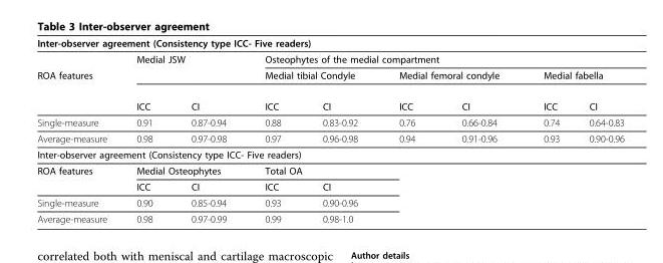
<table><thead><tr><td colspan="9">Inter-observer agreement (Consistency type ICC- Five readers)</td></tr><tr><td rowspan="3">ROA features</td><td colspan="2">Medial JSW</td><td colspan="6">Osteophytes of the medial compartment</td></tr><tr><td rowspan="2">ICC</td><td rowspan="2">CI</td><td colspan="2">Medial tibial Condyle</td><td colspan="2">Medial femoral condyle</td><td colspan="2">Medial fabella</td></tr><tr><td>ICC</td><td>CI</td><td>ICC</td><td>CI</td><td>ICC</td><td>CI</td></tr></thead><tbody><tr><td>Single-measure</td><td>0.91</td><td>0.87-0.94</td><td>0.88</td><td>0.83-0.92</td><td>0.76</td><td>0.66-0.84</td><td>0.74</td><td>0.64-0.83</td></tr><tr><td>Average-measure</td><td>0.98</td><td>0.97-0.98</td><td>0.97</td><td>0.96-0.98</td><td>0.94</td><td>0.91-0.96</td><td>0.93</td><td>0.90-0.96</td></tr><tr><td colspan="9">Inter-observer agreement (Consistency type ICC- Five readers)</td></tr><tr><td rowspan="2">ROA features</td><td colspan="2">Medial Osteophytes</td><td colspan="2">Total OA</td><td></td><td></td><td></td><td></td></tr><tr><td>ICC</td><td>CI</td><td>ICC</td><td>CI</td><td></td><td></td><td></td><td></td></tr><tr><td>Single-measure</td><td>0.90</td><td>0.85-0.94</td><td>0.93</td><td>0.90-0.96</td><td></td><td></td><td></td><td></td></tr><tr><td>Average-measure</td><td>0.98</td><td>0.97-0.99</td><td>0.99</td><td>0.98-1.0</td><td></td><td></td><td></td><td></td></tr></tbody></table>